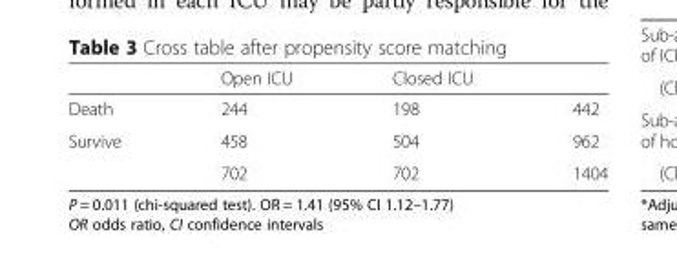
<table><thead><tr><td></td><td>Open ICU</td><td>Closed ICU</td><td></td></tr></thead><tbody><tr><td>Death</td><td>244</td><td>198</td><td>442</td></tr><tr><td rowspan="2">Survive</td><td>458</td><td>504</td><td>962</td></tr><tr><td>702</td><td>702</td><td>1404</td></tr></tbody></table>